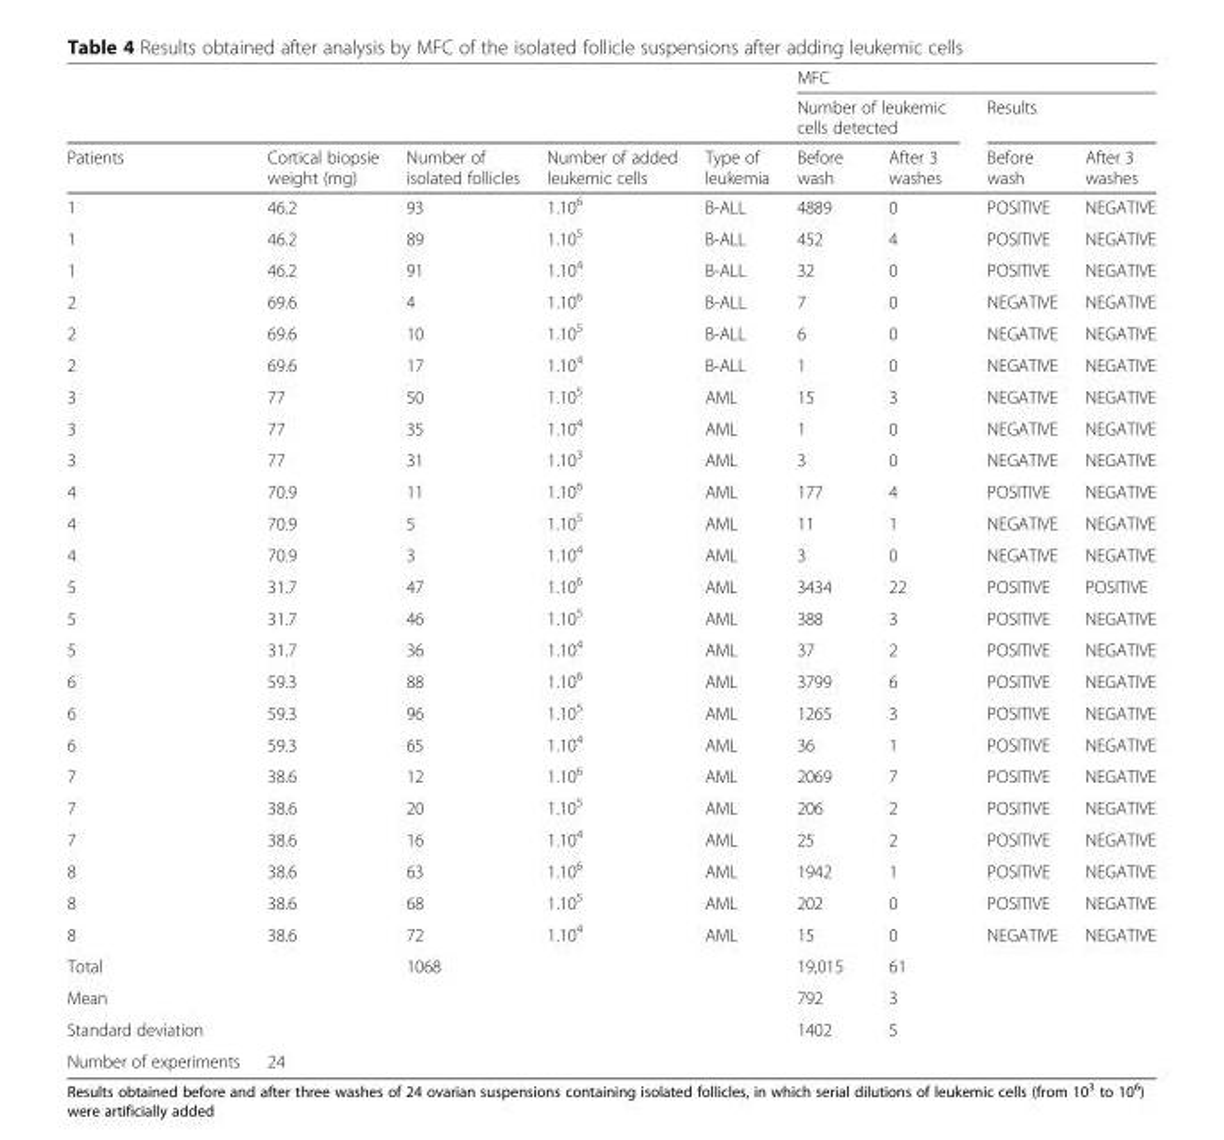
<table><thead><tr><td rowspan="3">Patients</td><td rowspan="3">Cortical biopsie weight (mg)</td><td rowspan="3">Number of isolated follicles</td><td rowspan="3">Number of added leukemic cells</td><td rowspan="3">Type of leukemia</td><td colspan="4">MFC</td></tr><tr><td colspan="2">Number of leukemic cells detected</td><td colspan="2">Results</td></tr><tr><td>Before wash</td><td>After 3 washes</td><td>Before wash</td><td>After 3 washes</td></tr></thead><tbody><tr><td>1</td><td>46.2</td><td>93</td><td>1.10<sup>6</sup></td><td>B-ALL</td><td>4889</td><td>0</td><td>POSITIVE</td><td>NEGATIVE</td></tr><tr><td>1</td><td>46.2</td><td>89</td><td>1.10<sup>5</sup></td><td>B-ALL</td><td>452</td><td>4</td><td>POSITIVE</td><td>NEGATIVE</td></tr><tr><td>1</td><td>46.2</td><td>91</td><td>1.10<sup>4</sup></td><td>B-ALL</td><td>32</td><td>0</td><td>POSITIVE</td><td>NEGATIVE</td></tr><tr><td>2</td><td>69.6</td><td>4</td><td>1.10<sup>6</sup></td><td>B-ALL</td><td>7</td><td>0</td><td>NEGATIVE</td><td>NEGATIVE</td></tr><tr><td>2</td><td>69.6</td><td>10</td><td>1.10<sup>5</sup></td><td>B-ALL</td><td>6</td><td>0</td><td>NEGATIVE</td><td>NEGATIVE</td></tr><tr><td>2</td><td>69.6</td><td>17</td><td>1.10<sup>4</sup></td><td>B-ALL</td><td>1</td><td>0</td><td>NEGATIVE</td><td>NEGATIVE</td></tr><tr><td>3</td><td>77</td><td>50</td><td>1.10<sup>5</sup></td><td>AML</td><td>15</td><td>3</td><td>NEGATIVE</td><td>NEGATIVE</td></tr><tr><td>3</td><td>77</td><td>35</td><td>1.10<sup>4</sup></td><td>AML</td><td>1</td><td>0</td><td>NEGATIVE</td><td>NEGATIVE</td></tr><tr><td>3</td><td>77</td><td>31</td><td>1.10<sup>3</sup></td><td>AML</td><td>3</td><td>0</td><td>NEGATIVE</td><td>NEGATIVE</td></tr><tr><td>4</td><td>70.9</td><td>11</td><td>1.10<sup>6</sup></td><td>AML</td><td>177</td><td>4</td><td>POSITIVE</td><td>NEGATIVE</td></tr><tr><td>4</td><td>70.9</td><td>5</td><td>1.10<sup>5</sup></td><td>AML</td><td>11</td><td>1</td><td>NEGATIVE</td><td>NEGATIVE</td></tr><tr><td>4</td><td>70.9</td><td>3</td><td>1.10<sup>4</sup></td><td>AML</td><td>3</td><td>0</td><td>NEGATIVE</td><td>NEGATIVE</td></tr><tr><td>5</td><td>31.7</td><td>47</td><td>1.10<sup>6</sup></td><td>AML</td><td>3434</td><td>22</td><td>POSITIVE</td><td>POSITIVE</td></tr><tr><td>5</td><td>31.7</td><td>46</td><td>1.10<sup>5</sup></td><td>AML</td><td>388</td><td>3</td><td>POSITIVE</td><td>NEGATIVE</td></tr><tr><td>5</td><td>31.7</td><td>36</td><td>1.10<sup>4</sup></td><td>AML</td><td>37</td><td>2</td><td>POSITIVE</td><td>NEGATIVE</td></tr><tr><td>6</td><td>59.3</td><td>88</td><td>1.10<sup>6</sup></td><td>AML</td><td>3799</td><td>6</td><td>POSITIVE</td><td>NEGATIVE</td></tr><tr><td>6</td><td>59.3</td><td>96</td><td>1.10<sup>5</sup></td><td>AML</td><td>1265</td><td>3</td><td>POSITIVE</td><td>NEGATIVE</td></tr><tr><td>6</td><td>59.3</td><td>65</td><td>1.10<sup>4</sup></td><td>AML</td><td>36</td><td>1</td><td>POSITIVE</td><td>NEGATIVE</td></tr><tr><td>7</td><td>38.6</td><td>12</td><td>1.10<sup>6</sup></td><td>AML</td><td>2069</td><td>7</td><td>POSITIVE</td><td>NEGATIVE</td></tr><tr><td>7</td><td>38.6</td><td>20</td><td>1.10<sup>5</sup></td><td>AML</td><td>206</td><td>2</td><td>POSITIVE</td><td>NEGATIVE</td></tr><tr><td>7</td><td>38.6</td><td>16</td><td>1.10<sup>4</sup></td><td>AML</td><td>25</td><td>2</td><td>POSITIVE</td><td>NEGATIVE</td></tr><tr><td>8</td><td>38.6</td><td>63</td><td>1.10<sup>6</sup></td><td>AML</td><td>1942</td><td>1</td><td>POSITIVE</td><td>NEGATIVE</td></tr><tr><td>8</td><td>38.6</td><td>68</td><td>1.10<sup>5</sup></td><td>AML</td><td>202</td><td>0</td><td>POSITIVE</td><td>NEGATIVE</td></tr><tr><td>8</td><td>38.6</td><td>72</td><td>1.10<sup>4</sup></td><td>AML</td><td>15</td><td>0</td><td>NEGATIVE</td><td>NEGATIVE</td></tr><tr><td>Total</td><td></td><td>1068</td><td></td><td></td><td>19,015</td><td>61</td><td></td><td></td></tr><tr><td>Mean</td><td></td><td></td><td></td><td></td><td>792</td><td>3</td><td></td><td></td></tr><tr><td>Standard deviation</td><td></td><td></td><td></td><td></td><td>1402</td><td>5</td><td></td><td></td></tr><tr><td>Number of experiments</td><td>24</td><td></td><td></td><td></td><td></td><td></td><td></td><td></td></tr></tbody></table>